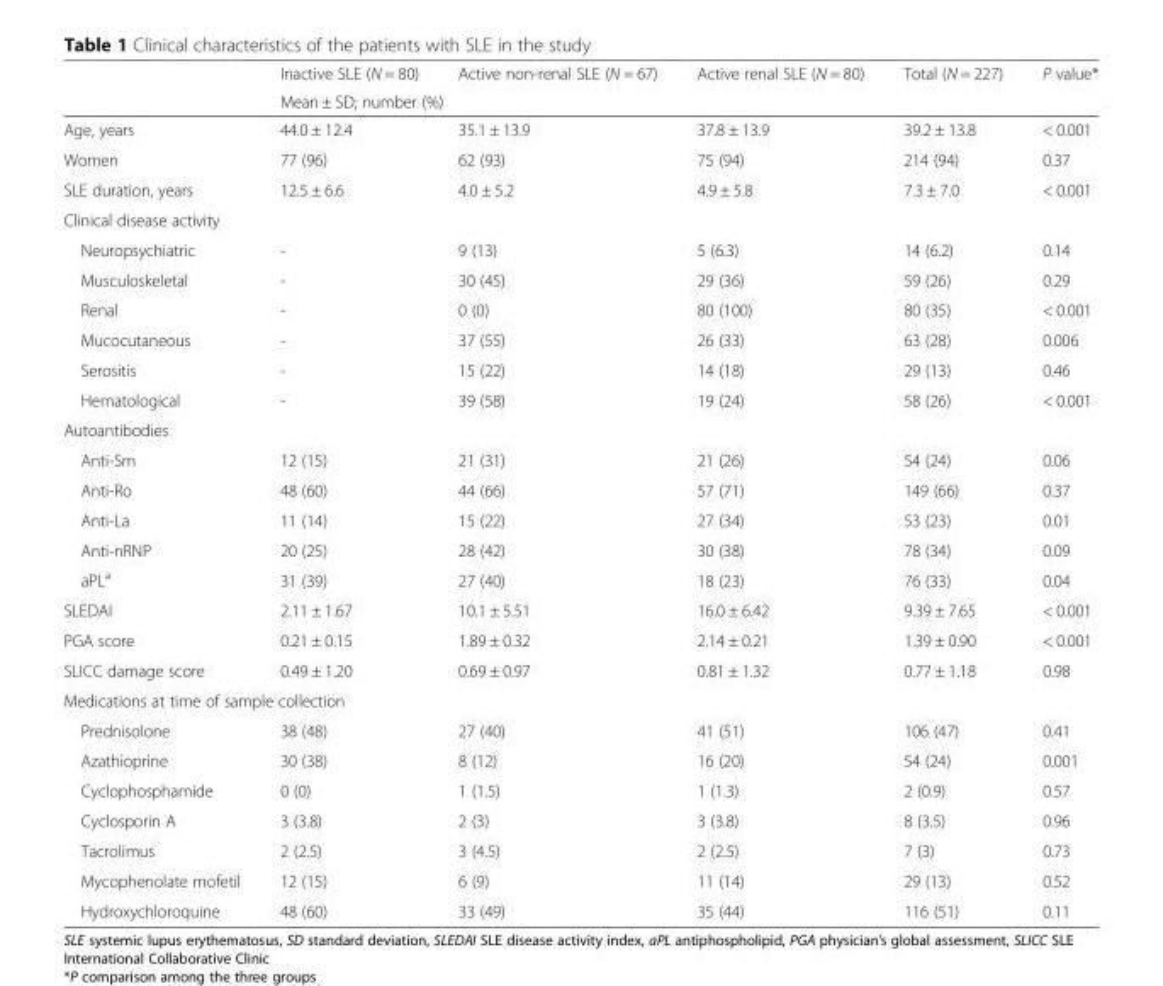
<table><thead><tr><td rowspan="2"></td><td>Inactive SLE (N = 80)</td><td>Active non-renal SLE (N = 67)</td><td>Active renal SLE (N = 80)</td><td>Total (N = 227)</td><td rowspan="2">P value*</td></tr><tr><td colspan="4">Mean ± SD; number (%)</td></tr></thead><tbody><tr><td>Age, years</td><td>44.0 ± 12.4</td><td>35.1 ± 13.9</td><td>37.8 ± 13.9</td><td>39.2 ± 13.8</td><td>&lt; 0.001</td></tr><tr><td>Women</td><td>77 (96)</td><td>62 (93)</td><td>75 (94)</td><td>214 (94)</td><td>0.37</td></tr><tr><td>SLE duration, years</td><td>12.5 ± 6.6</td><td>4.0 ± 5.2</td><td>4.9 ± 5.8</td><td>7.3 ± 7.0</td><td>&lt; 0.001</td></tr><tr><td colspan="6">Clinical disease activity</td></tr><tr><td>Neuropsychiatric</td><td>-</td><td>9 (13)</td><td>5 (6.3)</td><td>14 (6.2)</td><td>0.14</td></tr><tr><td>Musculoskeletal</td><td>-</td><td>30 (45)</td><td>29 (36)</td><td>59 (26)</td><td>0.29</td></tr><tr><td>Renal</td><td>-</td><td>0 (0)</td><td>80 (100)</td><td>80 (35)</td><td>&lt; 0.001</td></tr><tr><td>Mucocutaneous</td><td>-</td><td>37 (55)</td><td>26 (33)</td><td>63 (28)</td><td>0.006</td></tr><tr><td>Serositis</td><td>-</td><td>15 (22)</td><td>14 (18)</td><td>29 (13)</td><td>0.46</td></tr><tr><td>Hematological</td><td>-</td><td>39 (58)</td><td>19 (24)</td><td>58 (26)</td><td>&lt; 0.001</td></tr><tr><td colspan="6">Autoantibodies</td></tr><tr><td>Anti-Sm</td><td>12 (15)</td><td>21 (31)</td><td>21 (26)</td><td>54 (24)</td><td>0.06</td></tr><tr><td>Anti-Ro</td><td>48 (60)</td><td>44 (66)</td><td>57 (71)</td><td>149 (66)</td><td>0.37</td></tr><tr><td>Anti-La</td><td>11 (14)</td><td>15 (22)</td><td>27 (34)</td><td>53 (23)</td><td>0.01</td></tr><tr><td>Anti-nRNP</td><td>20 (25)</td><td>28 (42)</td><td>30 (38)</td><td>78 (34)</td><td>0.09</td></tr><tr><td>aPL<sup>a</sup></td><td>31 (39)</td><td>27 (40)</td><td>18 (23)</td><td>76 (33)</td><td>0.04</td></tr><tr><td>SLEDAI</td><td>2.11 ± 1.67</td><td>10.1 ± 5.51</td><td>16.0 ± 6.42</td><td>9.39 ± 7.65</td><td>&lt; 0.001</td></tr><tr><td>PGA score</td><td>0.21 ± 0.15</td><td>1.89 ± 0.32</td><td>2.14 ± 0.21</td><td>1.39 ± 0.90</td><td>&lt; 0.001</td></tr><tr><td>SLICC damage score</td><td>0.49 ± 1.20</td><td>0.69 ± 0.97</td><td>0.81 ± 1.32</td><td>0.77 ± 1.18</td><td>0.98</td></tr><tr><td colspan="6">Medications at time of sample collection</td></tr><tr><td>Prednisolone</td><td>38 (48)</td><td>27 (40)</td><td>41 (51)</td><td>106 (47)</td><td>0.41</td></tr><tr><td>Azathioprine</td><td>30 (38)</td><td>8 (12)</td><td>16 (20)</td><td>54 (24)</td><td>0.001</td></tr><tr><td>Cyclophosphamide</td><td>0 (0)</td><td>1 (1.5)</td><td>1 (1.3)</td><td>2 (0.9)</td><td>0.57</td></tr><tr><td>Cyclosporin A</td><td>3 (3.8)</td><td>2 (3)</td><td>3 (3.8)</td><td>8 (3.5)</td><td>0.96</td></tr><tr><td>Tacrolimus</td><td>2 (2.5)</td><td>3 (4.5)</td><td>2 (2.5)</td><td>7 (3)</td><td>0.73</td></tr><tr><td>Mycophenolate mofetil</td><td>12 (15)</td><td>6 (9)</td><td>11 (14)</td><td>29 (13)</td><td>0.52</td></tr><tr><td>Hydroxychloroquine</td><td>48 (60)</td><td>33 (49)</td><td>35 (44)</td><td>116 (51)</td><td>0.11</td></tr></tbody></table>